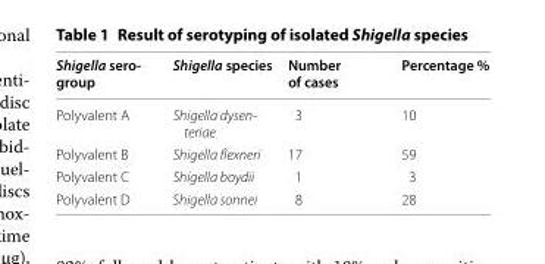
<table><thead><tr><td>Shigella sero- group</td><td>Shigella species</td><td>Number of cases</td><td>Percentage %</td></tr></thead><tbody><tr><td>Polyvalent A</td><td>Shigella dysen- teriae</td><td>3</td><td>10</td></tr><tr><td>Polyvalent B</td><td>Shigella flexneri</td><td>17</td><td>59</td></tr><tr><td>Polyvalent C</td><td>Shigella boydii</td><td>1</td><td>3</td></tr><tr><td>Polyvalent D</td><td>Shigella sonnei</td><td>8</td><td>28</td></tr></tbody></table>